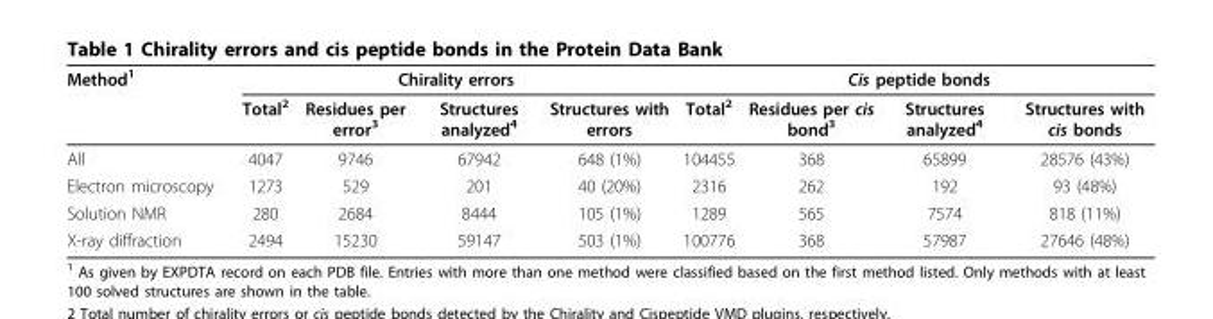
<table><thead><tr><td rowspan="2">Method<sup>1</sup></td><td colspan="4">Chirality errors</td><td colspan="4">Cis peptide bonds</td></tr><tr><td>Total<sup>2</sup></td><td>Residues per error<sup>3</sup></td><td>Structures analyzed<sup>4</sup></td><td>Structures with errors</td><td>Total<sup>2</sup></td><td>Residues per cis bond<sup>3</sup></td><td>Structures analyzed<sup>4</sup></td><td>Structures with cis bonds</td></tr></thead><tbody><tr><td>All</td><td>4047</td><td>9746</td><td>67942</td><td>648 (1%)</td><td>104455</td><td>368</td><td>65899</td><td>28576 (43%)</td></tr><tr><td>Electron microscopy</td><td>1273</td><td>529</td><td>201</td><td>40 (20%)</td><td>2316</td><td>262</td><td>192</td><td>93 (48%)</td></tr><tr><td>Solution NMR</td><td>280</td><td>2684</td><td>8444</td><td>105 (1%)</td><td>1289</td><td>565</td><td>7574</td><td>818 (11%)</td></tr><tr><td>X-ray diffraction</td><td>2494</td><td>15230</td><td>59147</td><td>503 (1%)</td><td>100776</td><td>368</td><td>57987</td><td>27646 (48%)</td></tr></tbody></table>